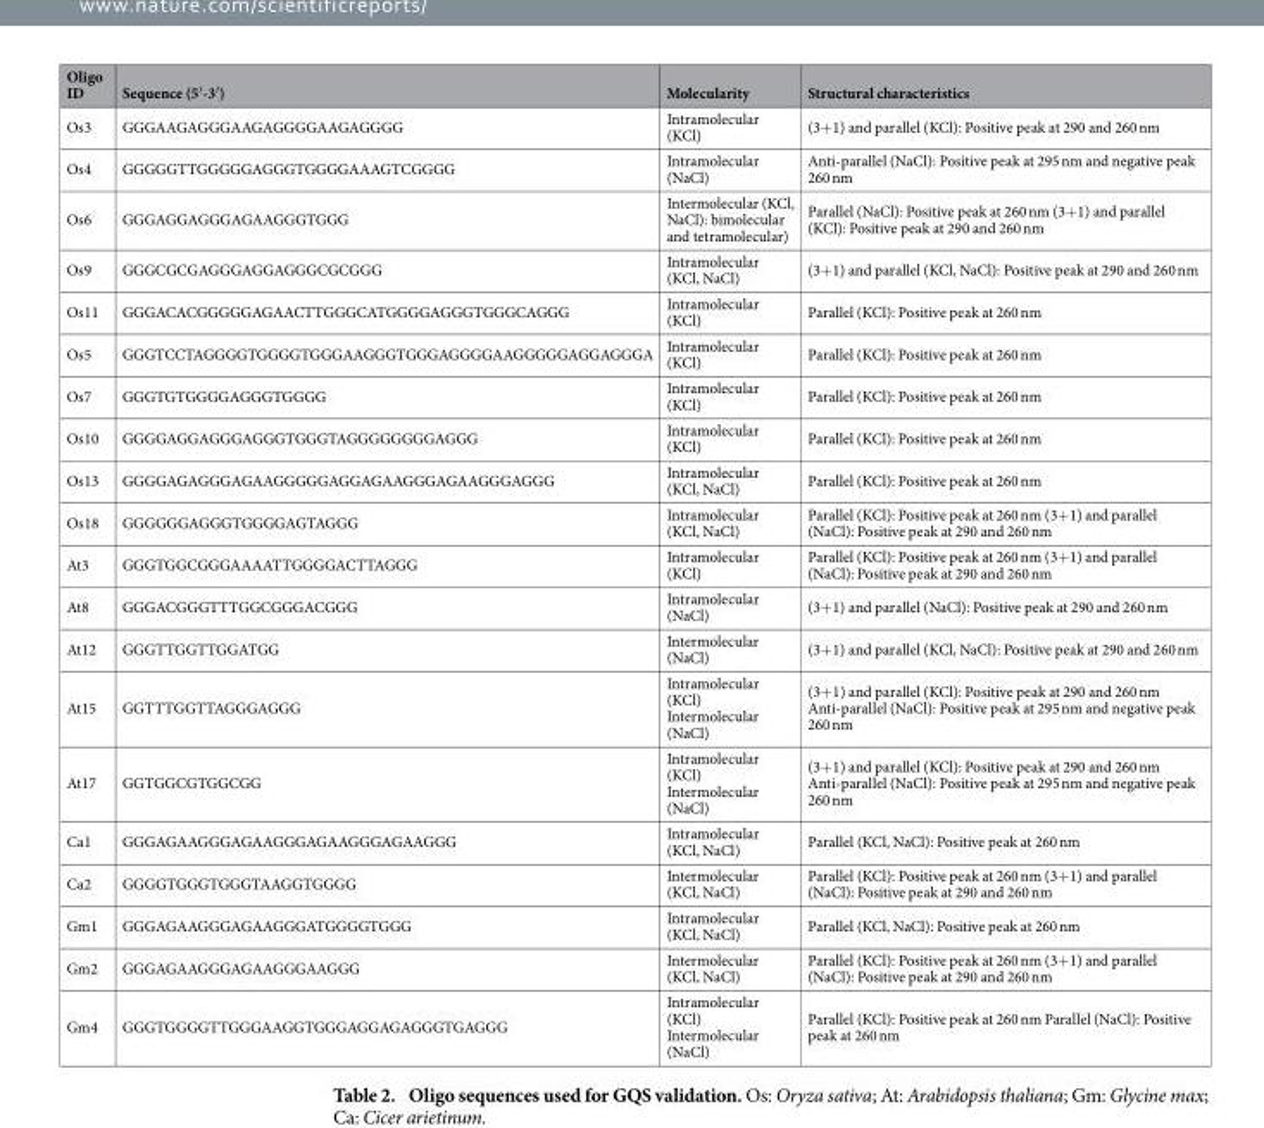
<table><thead><tr><td>Oligo ID</td><td>Sequence (5′ -3′ )</td><td>Molecularity</td><td>Structural characteristics</td></tr></thead><tbody><tr><td>Os3</td><td>GGGAAGAGGGAAGAGGGGAAGAGGGG</td><td>Intramolecular (KCl)</td><td>(3+ 1) and parallel (KCl): Positive peak at 290 and 260 nm</td></tr><tr><td>Os4</td><td>GGGGGTTGGGGGAGGGTGGGGAAAGTCGGGG</td><td>Intramolecular (NaCl)</td><td>Anti-parallel (NaCl): Positive peak at 295 nm and negative peak 260 nm</td></tr><tr><td>Os6</td><td>GGGAGGAGGGAGAAGGGTGGG</td><td>Intermolecular (KCl, NaCl): bimolecular and tetramolecular)</td><td>Parallel (NaCl): Positive peak at 260 nm (3+ 1) and parallel (KCl): Positive peak at 290 and 260 nm</td></tr><tr><td>Os9</td><td>GGGCGCGAGGGAGGAGGGCGCGGG</td><td>Intramolecular (KCl, NaCl)</td><td>(3+ 1) and parallel (KCl, NaCl): Positive peak at 290 and 260 nm</td></tr><tr><td>Os11</td><td>GGGACACGGGGGAGAACTTGGGCATGGGGAGGGTGGGCAGGG</td><td>Intramolecular (KCl)</td><td>Parallel (KCl): Positive peak at 260 nm</td></tr><tr><td>Os5</td><td>GGGTCCTAGGGGTGGGGTGGGAAGGGTGGGAGGGGAAGGGGGAGGAGGGA</td><td>Intramolecular (KCl)</td><td>Parallel (KCl): Positive peak at 260 nm</td></tr><tr><td>Os7</td><td>GGGTGTGGGGAGGGTGGGG</td><td>Intramolecular (KCl)</td><td>Parallel (KCl): Positive peak at 260 nm</td></tr><tr><td>Os10</td><td>GGGGAGGAGGGAGGGTGGGTAGGGGGGGGAGGG</td><td>Intramolecular (KCl)</td><td>Parallel (KCl): Positive peak at 260 nm</td></tr><tr><td>Os13</td><td>GGGGAGAGGGAGAAGGGGGAGGAGAAGGGAGAAGGGAGGG</td><td>Intramolecular (KCl, NaCl)</td><td>Parallel (KCl): Positive peak at 260 nm</td></tr><tr><td>Os18</td><td>GGGGGGAGGGTGGGGAGTAGGG</td><td>Intramolecular (KCl, NaCl)</td><td>Parallel (KCl): Positive peak at 260 nm (3+ 1) and parallel (NaCl): Positive peak at 290 and 260 nm</td></tr><tr><td>At3</td><td>GGGTGGCGGGAAAATTGGGGACTTAGGG</td><td>Intramolecular (KCl)</td><td>Parallel (KCl): Positive peak at 260 nm (3+ 1) and parallel (NaCl): Positive peak at 290 and 260 nm</td></tr><tr><td>At8</td><td>GGGACGGGTTTGGCGGGACGGG</td><td>Intramolecular (NaCl)</td><td>(3+ 1) and parallel (NaCl): Positive peak at 290 and 260 nm</td></tr><tr><td>At12</td><td>GGGTTGGTTGGATGG</td><td>Intermolecular (NaCl)</td><td>(3+ 1) and parallel (KCl, NaCl): Positive peak at 290 and 260 nm</td></tr><tr><td>At15</td><td>GGTTTGGTTAGGGAGGG</td><td>Intramolecular (KCl) Intermolecular (NaCl)</td><td>(3+ 1) and parallel (KCl): Positive peak at 290 and 260 nm Anti-parallel (NaCl): Positive peak at 295 nm and negative peak 260 nm</td></tr><tr><td>At17</td><td>GGTGGCGTGGCGG</td><td>Intramolecular (KCl) Intermolecular (NaCl)</td><td>(3+ 1) and parallel (KCl): Positive peak at 290 and 260 nm Anti-parallel (NaCl): Positive peak at 295 nm and negative peak 260 nm</td></tr><tr><td>Ca1</td><td>GGGAGAAGGGAGAAGGGAGAAGGGAGAAGGG</td><td>Intramolecular (KCl, NaCl)</td><td>Parallel (KCl, NaCl): Positive peak at 260 nm</td></tr><tr><td>Ca2</td><td>GGGGTGGGTGGGTAAGGTGGGG</td><td>Intermolecular (KCl, NaCl)</td><td>Parallel (KCl): Positive peak at 260 nm (3+ 1) and parallel (NaCl): Positive peak at 290 and 260 nm</td></tr><tr><td>Gm1</td><td>GGGAGAAGGGAGAAGGGATGGGGTGGG</td><td>Intramolecular (KCl, NaCl)</td><td>Parallel (KCl, NaCl): Positive peak at 260 nm</td></tr><tr><td>Gm2</td><td>GGGAGAAGGGAGAAGGGAAGGG</td><td>Intermolecular (KCl, NaCl)</td><td>Parallel (KCl): Positive peak at 260 nm (3+ 1) and parallel (NaCl): Positive peak at 290 and 260 nm</td></tr><tr><td>Gm4</td><td>GGGTGGGGTTGGGAAGGTGGGAGGAGAGGGTGAGGG</td><td>Intramolecular (KCl) Intermolecular (NaCl)</td><td>Parallel (KCl): Positive peak at 260 nm Parallel (NaCl): Positive peak at 260 nm</td></tr></tbody></table>